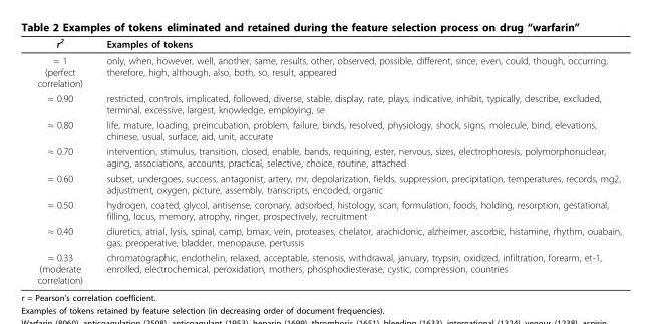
<table><thead><tr><td>r<sup>2</sup></td><td>Examples of tokens</td></tr></thead><tbody><tr><td>≈ 1 (perfect correlation)</td><td>only, when, however, well, another, same, results, other, observed, possible, different, since, even, could, though, occurring, therefore, high, although, also, both, so, result, appeared</td></tr><tr><td>≈ 0.90</td><td>restricted, controls, implicated, followed, diverse, stable, display, rate, plays, indicative, inhibit, typically, describe, excluded, terminal, excessive, largest, knowledge, employing, se</td></tr><tr><td>≈ 0.80</td><td>life, mature, loading, preincubation, problem, failure, binds, resolved, physiology, shock, signs, molecule, bind, elevations, chinese, usual, surface, aid, unit, accurate</td></tr><tr><td>≈ 0.70</td><td>intervention, stimulus, transition, closed, enable, bands, requiring, ester, nervous, sizes, electrophoresis, polymorphonuclear, aging, associations, accounts, practical, selective, choice, routine, attached</td></tr><tr><td>≈ 0.60</td><td>subset, undergoes, success, antagonist, artery, mr, depolarization, fields, suppression, precipitation, temperatures, records, mg2, adjustment, oxygen, picture, assembly, transcripts, encoded, organic</td></tr><tr><td>≈ 0.50</td><td>hydrogen, coated, glycol, antisense, coronary, adsorbed, histology, scan, formulation, foods, holding, resorption, gestational, filling, locus, memory, atrophy, ringer, prospectively, recruitment</td></tr><tr><td>≈ 0.40</td><td>diuretics, atrial, lysis, spinal, camp, bmax, vein, proteases, chelator, arachidonic, alzheimer, ascorbic, histamine, rhythm, ouabain, gas, preoperative, bladder, menopause, pertussis</td></tr><tr><td>≈ 0.33 (moderate correlation)</td><td>chromatographic, endothelin, relaxed, acceptable, stenosis, withdrawal, january, trypsin, oxidized, infiltration, forearm, et-1, enrolled, electrochemical, peroxidation, mothers, phosphodiesterase, cystic, compression, countries</td></tr></tbody></table>